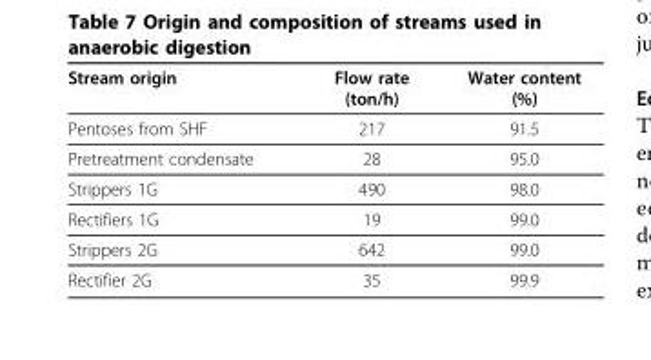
<table><thead><tr><td>Stream origin</td><td>Flow rate (ton/h)</td><td>Water content (%)</td></tr></thead><tbody><tr><td>Pentoses from SHF</td><td>217</td><td>91.5</td></tr><tr><td>Pretreatment condensate</td><td>28</td><td>95.0</td></tr><tr><td>Strippers 1G</td><td>490</td><td>98.0</td></tr><tr><td>Rectifiers 1G</td><td>19</td><td>99.0</td></tr><tr><td>Strippers 2G</td><td>642</td><td>99.0</td></tr><tr><td>Rectifier 2G</td><td>35</td><td>99.9</td></tr></tbody></table>